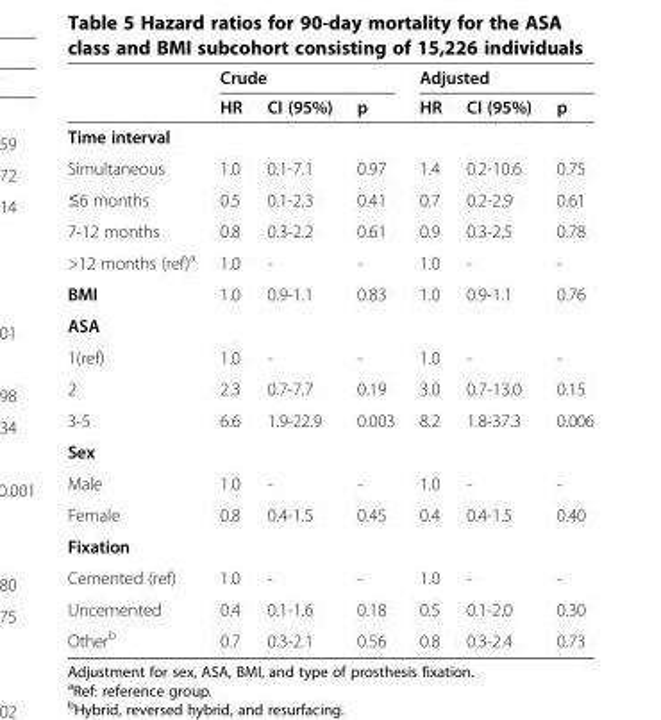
<table><thead><tr><td rowspan="2"></td><td colspan="3">Crude</td><td colspan="3">Adjusted</td></tr><tr><td>HR</td><td>CI (95%)</td><td>p</td><td>HR</td><td>CI (95%)</td><td>p</td></tr></thead><tbody><tr><td colspan="7">Time interval</td></tr><tr><td>Simultaneous</td><td>1.0</td><td>0.1-7.1</td><td>0.97</td><td>1.4</td><td>0.2-10.6</td><td>0.75</td></tr><tr><td>≤6 months</td><td>0.5</td><td>0.1-2.3</td><td>0.41</td><td>0.7</td><td>0.2-2.9</td><td>0.61</td></tr><tr><td>7-12 months</td><td>0.8</td><td>0.3-2.2</td><td>0.61</td><td>0.9</td><td>0.3-2.5</td><td>0.78</td></tr><tr><td>&gt;12 months (ref)<sup>a</sup></td><td>1.0</td><td>-</td><td>-</td><td>1.0</td><td>-</td><td>-</td></tr><tr><td>BMI</td><td>1.0</td><td>0.9-1.1</td><td>0.83</td><td>1.0</td><td>0.9-1.1</td><td>0.76</td></tr><tr><td colspan="7">ASA</td></tr><tr><td>1(ref)</td><td>1.0</td><td>-</td><td>-</td><td>1.0</td><td>-</td><td>-</td></tr><tr><td>2</td><td>2.3</td><td>0.7-7.7</td><td>0.19</td><td>3.0</td><td>0.7-13.0</td><td>0.15</td></tr><tr><td>3-5</td><td>6.6</td><td>1.9-22.9</td><td>0.003</td><td>8.2</td><td>1.8-37.3</td><td>0.006</td></tr><tr><td colspan="7">Sex</td></tr><tr><td>Male</td><td>1.0</td><td>-</td><td>-</td><td>1.0</td><td>-</td><td>-</td></tr><tr><td>Female</td><td>0.8</td><td>0.4-1.5</td><td>0.45</td><td>0.4</td><td>0.4-1.5</td><td>0.40</td></tr><tr><td colspan="7">Fixation</td></tr><tr><td>Cemented (ref)</td><td>1.0</td><td>-</td><td>-</td><td>1.0</td><td>-</td><td>-</td></tr><tr><td>Uncemented</td><td>0.4</td><td>0.1-1.6</td><td>0.18</td><td>0.5</td><td>0.1-2.0</td><td>0.30</td></tr><tr><td>Other<sup>b</sup></td><td>0.7</td><td>0.3-2.1</td><td>0.56</td><td>0.8</td><td>0.3-2.4</td><td>0.73</td></tr></tbody></table>